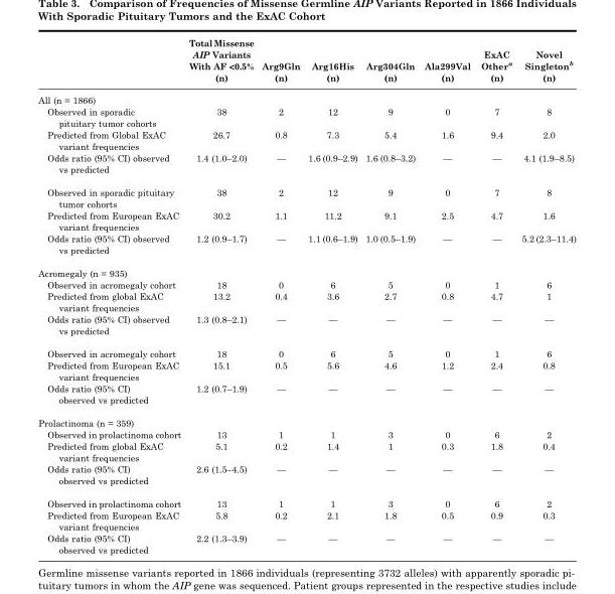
<table><thead><tr><td></td><td>Total Missense AIP Variants With AF &lt;0.5% (n)</td><td>Arg9Gln (n)</td><td>Arg16His (n)</td><td>Arg304Gln (n)</td><td>Ala299Val (n)</td><td>ExAC Other<sup>a</sup> (n)</td><td>Novel Singleton<sup>b</sup> (n)</td></tr></thead><tbody><tr><td colspan="8">All (n = 1866)</td></tr><tr><td>Observed in sporadic pituitary tumor cohorts</td><td>38</td><td>2</td><td>12</td><td>9</td><td>0</td><td>7</td><td>8</td></tr><tr><td>Predicted from Global ExAC variant frequencies</td><td>26.7</td><td>0.8</td><td>7.3</td><td>5.4</td><td>1.6</td><td>9.4</td><td>2.0</td></tr><tr><td>Odds ratio (95% CI) observed vs predicted</td><td>1.4 (1.0–2.0)</td><td>—</td><td>1.6 (0.9–2.9)</td><td>1.6 (0.8–3.2)</td><td>—</td><td>—</td><td>4.1 (1.9–8.5)</td></tr><tr><td>Observed in sporadic pituitary tumor cohorts</td><td>38</td><td>2</td><td>12</td><td>9</td><td>0</td><td>7</td><td>8</td></tr><tr><td>Predicted from European ExAC variant frequencies</td><td>30.2</td><td>1.1</td><td>11.2</td><td>9.1</td><td>2.5</td><td>4.7</td><td>1.6</td></tr><tr><td>Odds ratio (95% CI) observed vs predicted</td><td>1.2 (0.9–1.7)</td><td>—</td><td>1.1 (0.6–1.9)</td><td>1.0 (0.5–1.9)</td><td>—</td><td>—</td><td>5.2 (2.3–11.4)</td></tr><tr><td colspan="8">Acromegaly (n = 935)</td></tr><tr><td>Observed in acromegaly cohort</td><td>18</td><td>0</td><td>6</td><td>5</td><td>0</td><td>1</td><td>6</td></tr><tr><td>Predicted from global ExAC variant frequencies</td><td>13.2</td><td>0.4</td><td>3.6</td><td>2.7</td><td>0.8</td><td>4.7</td><td>1</td></tr><tr><td>Odds ratio (95% CI) observed vs predicted</td><td>1.3 (0.8–2.1)</td><td>—</td><td>—</td><td>—</td><td>—</td><td>—</td><td>—</td></tr><tr><td>Observed in acromegaly cohort</td><td>18</td><td>0</td><td>6</td><td>5</td><td>0</td><td>1</td><td>6</td></tr><tr><td>Predicted from European ExAC variant frequencies</td><td>15.1</td><td>0.5</td><td>5.6</td><td>4.6</td><td>1.2</td><td>2.4</td><td>0.8</td></tr><tr><td>Odds ratio (95% CI) observed vs predicted</td><td>1.2 (0.7–1.9)</td><td>—</td><td>—</td><td>—</td><td>—</td><td>—</td><td>—</td></tr><tr><td colspan="8">Prolactinoma (n = 359)</td></tr><tr><td>Observed in prolactinoma cohort</td><td>13</td><td>1</td><td>1</td><td>3</td><td>0</td><td>6</td><td>2</td></tr><tr><td>Predicted from global ExAC variant frequencies</td><td>5.1</td><td>0.2</td><td>1.4</td><td>1</td><td>0.3</td><td>1.8</td><td>0.4</td></tr><tr><td>Odds ratio (95% CI) observed vs predicted</td><td>2.6 (1.5–4.5)</td><td>—</td><td>—</td><td>—</td><td>—</td><td>—</td><td>—</td></tr><tr><td>Observed in prolactinoma cohort</td><td>13</td><td>1</td><td>1</td><td>3</td><td>0</td><td>6</td><td>2</td></tr><tr><td>Predicted from European ExAC variant frequencies</td><td>5.8</td><td>0.2</td><td>2.1</td><td>1.8</td><td>0.5</td><td>0.9</td><td>0.3</td></tr><tr><td>Odds ratio (95% CI) observed vs predicted</td><td>2.2 (1.3–3.9)</td><td>—</td><td>—</td><td>—</td><td>—</td><td>—</td><td>—</td></tr></tbody></table>